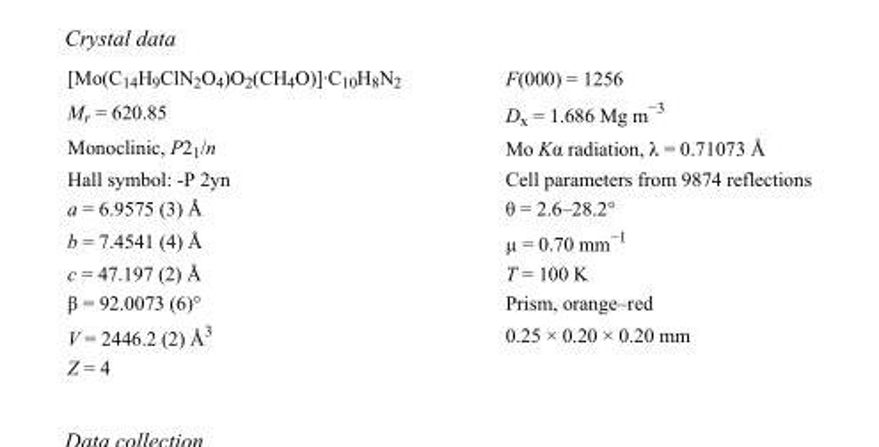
<table><tbody><tr><td>[Mo(C<sub>14</sub>H<sub>9</sub>ClN<sub>2</sub>O<sub>4</sub>)O<sub>2</sub>(CH<sub>4</sub>O)]·C<sub>10</sub>H<sub>8</sub>N<sub>2</sub></td><td>F(000) = 1256</td></tr><tr><td>M<sub>r</sub> = 620.85</td><td>D<sub>x</sub> = 1.686 Mg m<sup>−3</sup></td></tr><tr><td>Monoclinic, P2<sub>1</sub>/n</td><td>Mo Kα radiation, λ = 0.71073 Å</td></tr><tr><td>Hall symbol: -P 2yn</td><td>Cell parameters from 9874 reflections</td></tr><tr><td>a = 6.9575 (3) Å</td><td>θ = 2.6–28.2°</td></tr><tr><td>b = 7.4541 (4) Å</td><td>µ = 0.70 mm<sup>−1</sup></td></tr><tr><td>c = 47.197 (2) Å</td><td>T = 100 K</td></tr><tr><td>β = 92.0073 (6)°</td><td>Prism, orange–red</td></tr><tr><td>V = 2446.2 (2) Å<sup>3</sup></td><td>0.25 × 0.20 × 0.20 mm</td></tr><tr><td>Z = 4</td><td></td></tr></tbody></table>